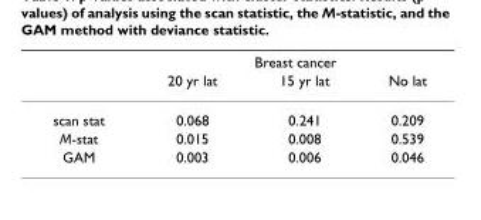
<table><thead><tr><td rowspan="2"></td><td colspan="3">Breast cancer</td></tr><tr><td>20 yr lat</td><td>15 yr lat</td><td>No lat</td></tr></thead><tbody><tr><td>scan stat</td><td>0.068</td><td>0.241</td><td>0.209</td></tr><tr><td>M-stat</td><td>0.015</td><td>0.008</td><td>0.539</td></tr><tr><td>GAM</td><td>0.003</td><td>0.006</td><td>0.046</td></tr></tbody></table>